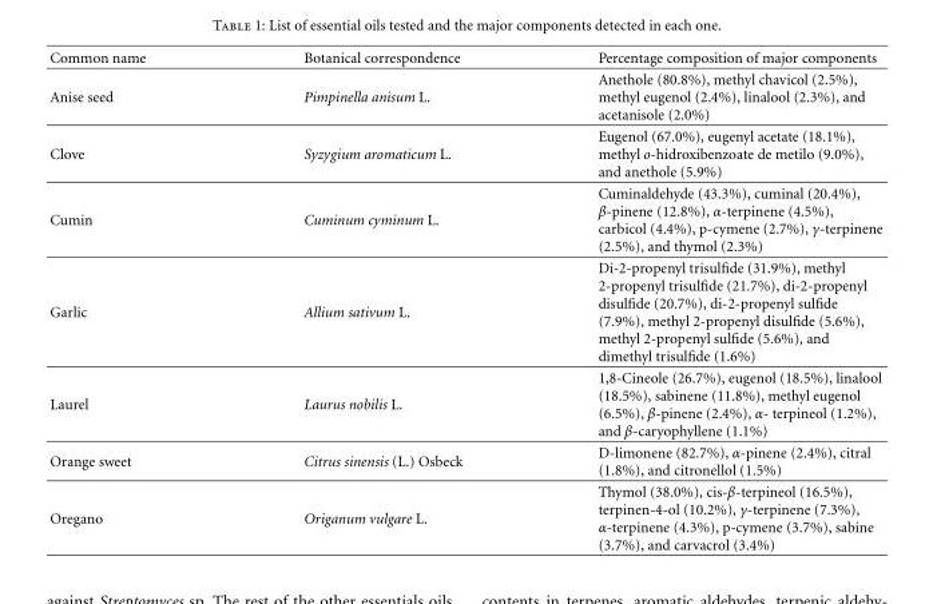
<table><thead><tr><td>Common name</td><td>Botanical correspondence</td><td>Percentage composition of major components</td></tr></thead><tbody><tr><td>Anise seed</td><td>Pimpinella anisum L.</td><td>Anethole (80.8%), methyl chavicol (2.5%), methyl eugenol (2.4%), linalool (2.3%), and acetanisole (2.0%)</td></tr><tr><td>Clove</td><td>Syzygium aromaticum L.</td><td>Eugenol (67.0%), eugenyl acetate (18.1%), methyl o-hidroxibenzoate de metilo (9.0%), and anethole (5.9%)</td></tr><tr><td>Cumin</td><td>Cuminum cyminum L.</td><td>Cuminaldehyde (43.3%), cuminal (20.4%), β-pinene (12.8%), α-terpinene (4.5%), carbicol (4.4%), p-cymene (2.7%), γ-terpinene (2.5%), and thymol (2.3%)</td></tr><tr><td>Garlic</td><td>Allium sativum L.</td><td>Di-2-propenyl trisulfide (31.9%), methyl 2-propenyl trisulfide (21.7%), di-2-propenyl disulfide (20.7%), di-2-propenyl sulfide (7.9%), methyl 2-propenyl disulfide (5.6%), methyl 2-propenyl sulfide (5.6%), and dimethyl trisulfide (1.6%)</td></tr><tr><td>Laurel</td><td>Laurus nobilis L.</td><td>1,8-Cineole (26.7%), eugenol (18.5%), linalool (18.5%), sabinene (11.8%), methyl eugenol (6.5%), β-pinene (2.4%), α- terpineol (1.2%), and β-caryophyllene (1.1%)</td></tr><tr><td>Orange sweet</td><td>Citrus sinensis (L.) Osbeck</td><td>D-limonene (82.7%), α-pinene (2.4%), citral (1.8%), and citronellol (1.5%)</td></tr><tr><td>Oregano</td><td>Origanum vulgare L.</td><td>Thymol (38.0%), cis-β-terpineol (16.5%), terpinen-4-ol (10.2%), γ-terpinene (7.3%), α-terpinene (4.3%), p-cymene (3.7%), sabine (3.7%), and carvacrol (3.4%)</td></tr></tbody></table>